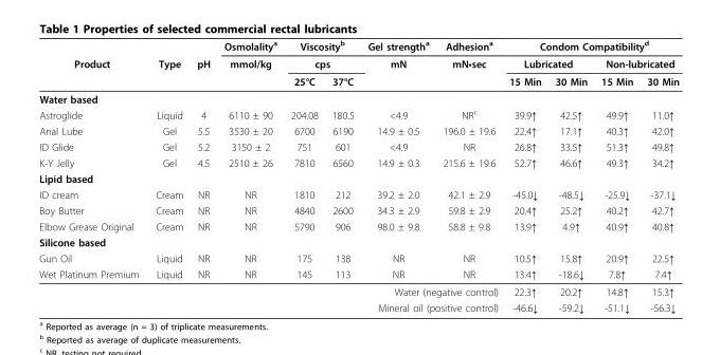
<table><thead><tr><td rowspan="3">Product</td><td rowspan="3">Type</td><td rowspan="3">pH</td><td rowspan="3">Osmolality<sup>a</sup> mmol/kg</td><td rowspan="2" colspan="2">Viscosity<sup>b</sup> cps</td><td rowspan="3">Gel strength<sup>a</sup> mN</td><td rowspan="3">Adhesion<sup>a</sup> mN•sec</td><td colspan="4">Condom Compatibility<sup>d</sup></td></tr><tr><td colspan="2">Lubricated</td><td colspan="2">Non-lubricated</td></tr><tr><td>25°C</td><td>37°C</td><td>15 Min</td><td>30 Min</td><td>15 Min</td><td>30 Min</td></tr></thead><tbody><tr><td colspan="12">Water based</td></tr><tr><td>Astroglide</td><td>Liquid</td><td>4</td><td>6110 ± 90</td><td>204.08</td><td>180.5</td><td>&lt;4.9</td><td>NR<sup>c</sup></td><td>39.9↑</td><td>42.5↑</td><td>49.9↑</td><td>11.0↑</td></tr><tr><td>Anal Lube</td><td>Gel</td><td>5.5</td><td>3530 ± 20</td><td>6700</td><td>6190</td><td>14.9 ± 0.5</td><td>196.0 ± 19.6</td><td>22.4↑</td><td>17.1↑</td><td>40.3↑</td><td>42.0↑</td></tr><tr><td>ID Glide</td><td>Gel</td><td>5.2</td><td>3150 ± 2</td><td>751</td><td>601</td><td>&lt;4.9</td><td>NR</td><td>26.8↑</td><td>33.5↑</td><td>51.3↑</td><td>49.8↑</td></tr><tr><td>K-Y Jelly</td><td>Gel</td><td>4.5</td><td>2510 ± 26</td><td>7810</td><td>6560</td><td>14.9 ± 0.3</td><td>215.6 ± 19.6</td><td>52.7↑</td><td>46.6↑</td><td>49.3↑</td><td>34.2↑</td></tr><tr><td colspan="12">Lipid based</td></tr><tr><td>ID cream</td><td>Cream</td><td>NR</td><td>NR</td><td>1810</td><td>212</td><td>39.2 ± 2.0</td><td>42.1 ± 2.9</td><td>-45.0↓</td><td>-48.5↓</td><td>-25.9↓</td><td>-37.1↓</td></tr><tr><td>Boy Butter</td><td>Cream</td><td>NR</td><td>NR</td><td>4840</td><td>2600</td><td>34.3 ± 2.9</td><td>59.8 ± 2.9</td><td>20.4↑</td><td>25.2↑</td><td>40.2↑</td><td>42.7↑</td></tr><tr><td>Elbow Grease Original</td><td>Cream</td><td>NR</td><td>NR</td><td>5790</td><td>906</td><td>98.0 ± 9.8</td><td>58.8 ± 9.8</td><td>13.9↑</td><td>4.9↑</td><td>40.9↑</td><td>40.8↑</td></tr><tr><td colspan="12">Silicone based</td></tr><tr><td>Gun Oil</td><td>Liquid</td><td>NR</td><td>NR</td><td>175</td><td>138</td><td>NR</td><td>NR</td><td>10.5↑</td><td>15.8↑</td><td>20.9↑</td><td>22.5↑</td></tr><tr><td rowspan="3">Wet Platinum Premium</td><td>Liquid</td><td>NR</td><td>NR</td><td>145</td><td>113</td><td>NR</td><td>NR</td><td>13.4↑</td><td>-18.6↓</td><td>7.8↑</td><td>7.4↑</td></tr><tr><td></td><td></td><td></td><td colspan="4">Water (negative control)</td><td>22.3↑</td><td>20.2↑</td><td>14.8↑</td><td>15.3↑</td></tr><tr><td></td><td></td><td></td><td colspan="4">Mineral oil (positive control)</td><td>-46.6↓</td><td>-59.2↓</td><td>-51.1↓</td><td>-56.3↓</td></tr></tbody></table>